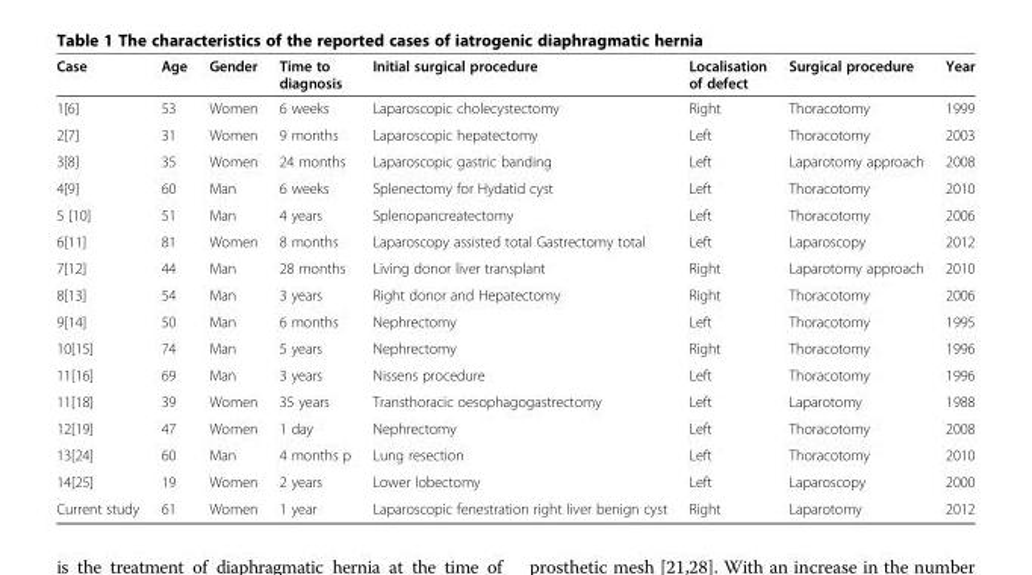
<table><thead><tr><td>Case</td><td>Age</td><td>Gender</td><td>Time to diagnosis</td><td>Initial surgical procedure</td><td>Localisation of defect</td><td>Surgical procedure</td><td>Year</td></tr></thead><tbody><tr><td>1[6]</td><td>53</td><td>Women</td><td>6 weeks</td><td>Laparoscopic cholecystectomy</td><td>Right</td><td>Thoracotomy</td><td>1999</td></tr><tr><td>2[7]</td><td>31</td><td>Women</td><td>9 months</td><td>Laparoscopic hepatectomy</td><td>Left</td><td>Thoracotomy</td><td>2003</td></tr><tr><td>3[8]</td><td>35</td><td>Women</td><td>24 months</td><td>Laparoscopic gastric banding</td><td>Left</td><td>Laparotomy approach</td><td>2008</td></tr><tr><td>4[9]</td><td>60</td><td>Man</td><td>6 weeks</td><td>Splenectomy for Hydatid cyst</td><td>Left</td><td>Thoracotomy</td><td>2010</td></tr><tr><td>5 [10]</td><td>51</td><td>Man</td><td>4 years</td><td>Splenopancreatectomy</td><td>Left</td><td>Thoracotomy</td><td>2006</td></tr><tr><td>6[11]</td><td>81</td><td>Women</td><td>8 months</td><td>Laparoscopy assisted total Gastrectomy total</td><td>Left</td><td>Laparoscopy</td><td>2012</td></tr><tr><td>7[12]</td><td>44</td><td>Man</td><td>28 months</td><td>Living donor liver transplant</td><td>Right</td><td>Laparotomy approach</td><td>2010</td></tr><tr><td>8[13]</td><td>54</td><td>Man</td><td>3 years</td><td>Right donor and Hepatectomy</td><td>Right</td><td>Thoracotomy</td><td>2006</td></tr><tr><td>9[14]</td><td>50</td><td>Man</td><td>6 months</td><td>Nephrectomy</td><td>Left</td><td>Thoracotomy</td><td>1995</td></tr><tr><td>10[15]</td><td>74</td><td>Man</td><td>5 years</td><td>Nephrectomy</td><td>Right</td><td>Thoracotomy</td><td>1996</td></tr><tr><td>11[16]</td><td>69</td><td>Man</td><td>3 years</td><td>Nissens procedure</td><td>Left</td><td>Thoracotomy</td><td>1996</td></tr><tr><td>11[18]</td><td>39</td><td>Women</td><td>35 years</td><td>Transthoracic oesophagogastrectomy</td><td>Left</td><td>Laparotomy</td><td>1988</td></tr><tr><td>12[19]</td><td>47</td><td>Women</td><td>1 day</td><td>Nephrectomy</td><td>Left</td><td>Thoracotomy</td><td>2008</td></tr><tr><td>13[24]</td><td>60</td><td>Man</td><td>4 months p</td><td>Lung resection</td><td>Left</td><td>Thoracotomy</td><td>2010</td></tr><tr><td>14[25]</td><td>19</td><td>Women</td><td>2 years</td><td>Lower lobectomy</td><td>Left</td><td>Laparoscopy</td><td>2000</td></tr><tr><td>Current study</td><td>61</td><td>Women</td><td>1 year</td><td>Laparoscopic fenestration right liver benign cyst</td><td>Right</td><td>Laparotomy</td><td>2012</td></tr></tbody></table>